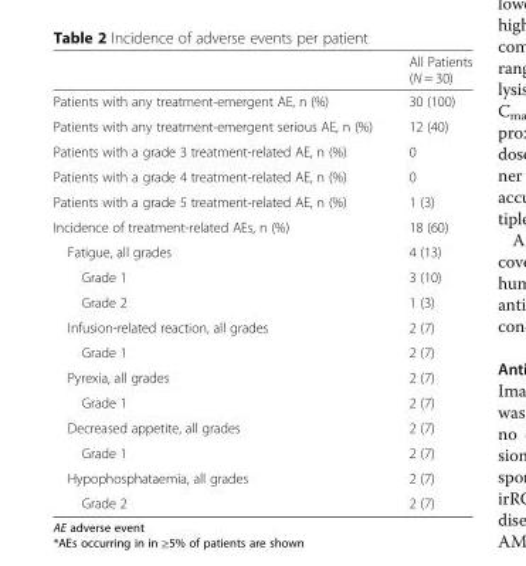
<table><thead><tr><td></td><td>All Patients (N = 30)</td></tr></thead><tbody><tr><td>Patients with any treatment-emergent AE, n (%)</td><td>30 (100)</td></tr><tr><td>Patients with any treatment-emergent serious AE, n (%)</td><td>12 (40)</td></tr><tr><td>Patients with a grade 3 treatment-related AE, n (%)</td><td>0</td></tr><tr><td>Patients with a grade 4 treatment-related AE, n (%)</td><td>0</td></tr><tr><td>Patients with a grade 5 treatment-related AE, n (%)</td><td>1 (3)</td></tr><tr><td>Incidence of treatment-related AEs, n (%)</td><td>18 (60)</td></tr><tr><td>Fatigue, all grades</td><td>4 (13)</td></tr><tr><td>Grade 1</td><td>3 (10)</td></tr><tr><td>Grade 2</td><td>1 (3)</td></tr><tr><td>Infusion-related reaction, all grades</td><td>2 (7)</td></tr><tr><td>Grade 1</td><td>2 (7)</td></tr><tr><td>Pyrexia, all grades</td><td>2 (7)</td></tr><tr><td>Grade 1</td><td>2 (7)</td></tr><tr><td>Decreased appetite, all grades</td><td>2 (7)</td></tr><tr><td>Grade 1</td><td>2 (7)</td></tr><tr><td>Hypophosphataemia, all grades</td><td>2 (7)</td></tr><tr><td>Grade 2</td><td>2 (7)</td></tr></tbody></table>